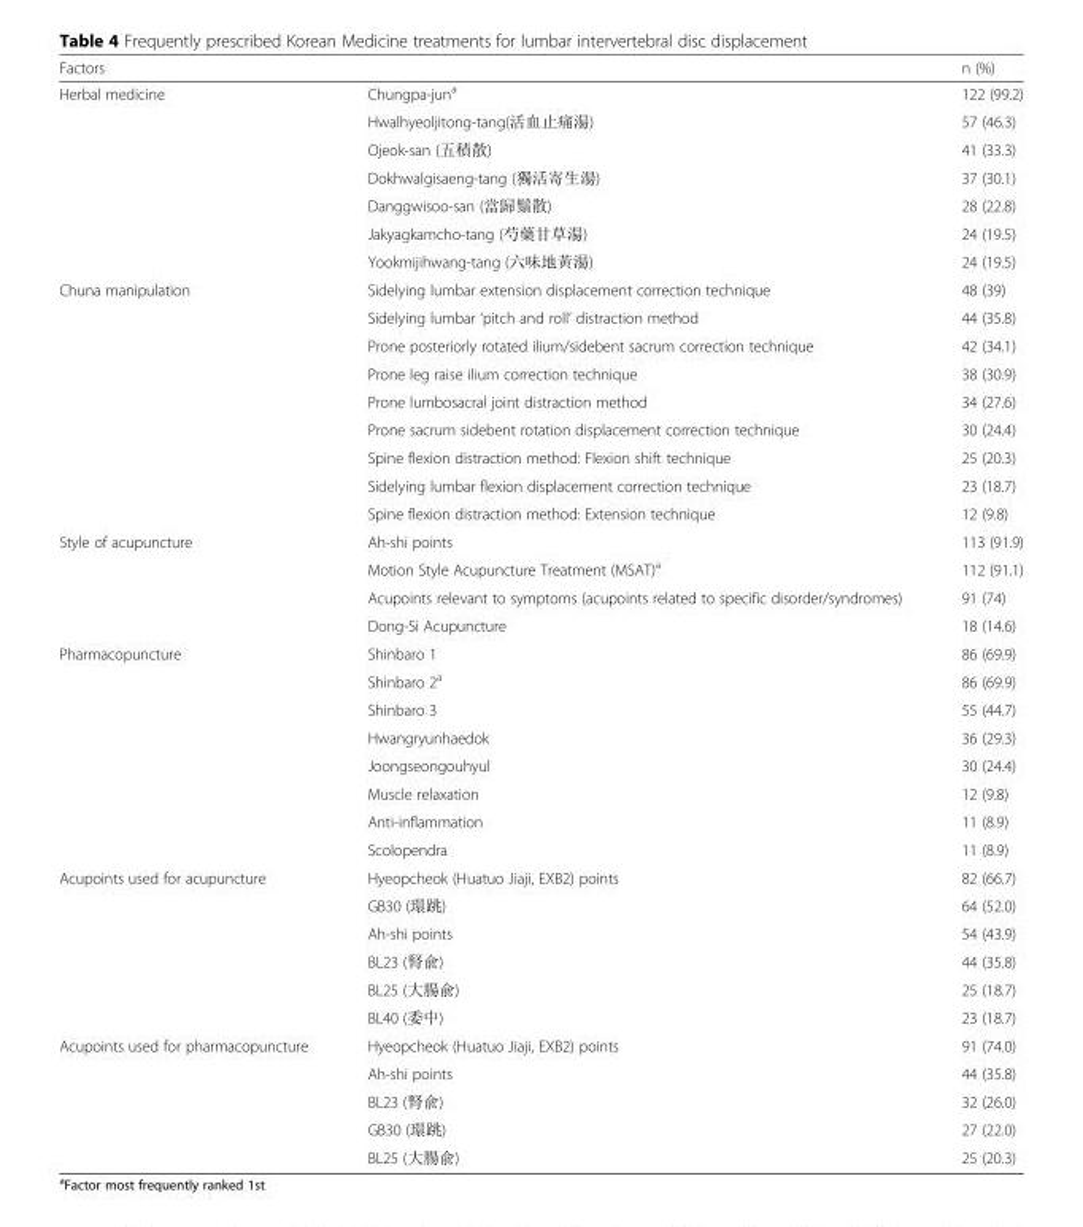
<table><thead><tr><td colspan="2">Factors</td><td rowspan="2">n (%) 122 (99.2)</td></tr><tr><td>Herbal medicine</td><td>Chungpa-jun<sup>a</sup></td></tr></thead><tbody><tr><td></td><td>Hwalhyeoljitong-tang(活血止痛湯)</td><td>57 (46.3)</td></tr><tr><td></td><td>Ojeok-san (五積散)</td><td>41 (33.3)</td></tr><tr><td></td><td>Dokhwalgisaeng-tang (獨活寄生湯)</td><td>37 (30.1)</td></tr><tr><td></td><td>Danggwisoo-san (當歸鬚散)</td><td>28 (22.8)</td></tr><tr><td></td><td>Jakyagkamcho-tang (芍藥甘草湯)</td><td>24 (19.5)</td></tr><tr><td></td><td>Yookmijihwang-tang (六味地黃湯)</td><td>24 (19.5)</td></tr><tr><td rowspan="9">Chuna manipulation</td><td>Sidelying lumbar extension displacement correction technique</td><td>48 (39)</td></tr><tr><td>Sidelying lumbar ‘pitch and roll’ distraction method</td><td>44 (35.8)</td></tr><tr><td>Prone posteriorly rotated ilium/sidebent sacrum correction technique</td><td>42 (34.1)</td></tr><tr><td>Prone leg raise ilium correction technique</td><td>38 (30.9)</td></tr><tr><td>Prone lumbosacral joint distraction method</td><td>34 (27.6)</td></tr><tr><td>Prone sacrum sidebent rotation displacement correction technique</td><td>30 (24.4)</td></tr><tr><td>Spine flexion distraction method: Flexion shift technique</td><td>25 (20.3)</td></tr><tr><td>Sidelying lumbar flexion displacement correction technique</td><td>23 (18.7)</td></tr><tr><td>Spine flexion distraction method: Extension technique</td><td>12 (9.8)</td></tr><tr><td rowspan="4">Style of acupuncture</td><td>Ah-shi points</td><td>113 (91.9)</td></tr><tr><td>Motion Style Acupuncture Treatment (MSAT)<sup>a</sup></td><td>112 (91.1)</td></tr><tr><td>Acupoints relevant to symptoms (acupoints related to specific disorder/syndromes)</td><td>91 (74)</td></tr><tr><td>Dong-Si Acupuncture</td><td>18 (14.6)</td></tr><tr><td rowspan="8">Pharmacopuncture</td><td>Shinbaro 1</td><td>86 (69.9)</td></tr><tr><td>Shinbaro 2<sup>a</sup></td><td>86 (69.9)</td></tr><tr><td>Shinbaro 3</td><td>55 (44.7)</td></tr><tr><td>Hwangryunhaedok</td><td>36 (29.3)</td></tr><tr><td>Joongseongouhyul</td><td>30 (24.4)</td></tr><tr><td>Muscle relaxation</td><td>12 (9.8)</td></tr><tr><td>Anti-inflammation</td><td>11 (8.9)</td></tr><tr><td>Scolopendra</td><td>11 (8.9)</td></tr><tr><td rowspan="6">Acupoints used for acupuncture</td><td>Hyeopcheok (Huatuo Jiaji, EXB2) points</td><td>82 (66.7)</td></tr><tr><td>GB30 (環跳)</td><td>64 (52.0)</td></tr><tr><td>Ah-shi points</td><td>54 (43.9)</td></tr><tr><td>BL23 (腎兪)</td><td>44 (35.8)</td></tr><tr><td>BL25 (大腸兪)</td><td>25 (18.7)</td></tr><tr><td>BL40 (委中)</td><td>23 (18.7)</td></tr><tr><td rowspan="5">Acupoints used for pharmacopuncture</td><td>Hyeopcheok (Huatuo Jiaji, EXB2) points</td><td>91 (74.0)</td></tr><tr><td>Ah-shi points</td><td>44 (35.8)</td></tr><tr><td>BL23 (腎兪)</td><td>32 (26.0)</td></tr><tr><td>GB30 (環跳)</td><td>27 (22.0)</td></tr><tr><td>BL25 (大腸兪)</td><td>25 (20.3)</td></tr></tbody></table>